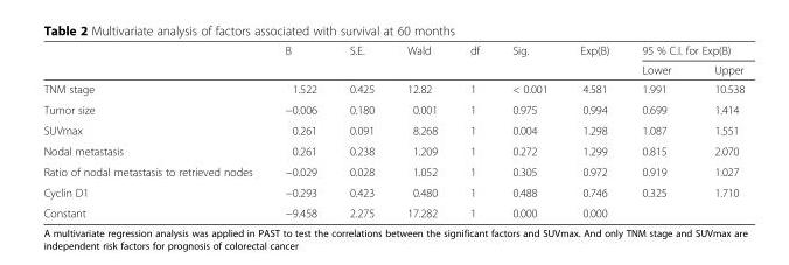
<table><thead><tr><td rowspan="2"></td><td rowspan="2">B</td><td rowspan="2">S.E.</td><td rowspan="2">Wald</td><td rowspan="2">df</td><td rowspan="2">Sig.</td><td rowspan="2">Exp(B)</td><td colspan="2">95 % C.I. for Exp(B)</td></tr><tr><td>Lower</td><td>Upper</td></tr></thead><tbody><tr><td>TNM stage</td><td>1.522</td><td>0.425</td><td>12.82</td><td>1</td><td>&lt; 0.001</td><td>4.581</td><td>1.991</td><td>10.538</td></tr><tr><td>Tumor size</td><td>−0.006</td><td>0.180</td><td>0.001</td><td>1</td><td>0.975</td><td>0.994</td><td>0.699</td><td>1.414</td></tr><tr><td>SUVmax</td><td>0.261</td><td>0.091</td><td>8.268</td><td>1</td><td>0.004</td><td>1.298</td><td>1.087</td><td>1.551</td></tr><tr><td>Nodal metastasis</td><td>0.261</td><td>0.238</td><td>1.209</td><td>1</td><td>0.272</td><td>1.299</td><td>0.815</td><td>2.070</td></tr><tr><td>Ratio of nodal metastasis to retrieved nodes</td><td>−0.029</td><td>0.028</td><td>1.052</td><td>1</td><td>0.305</td><td>0.972</td><td>0.919</td><td>1.027</td></tr><tr><td>Cyclin D1</td><td>−0.293</td><td>0.423</td><td>0.480</td><td>1</td><td>0.488</td><td>0.746</td><td>0.325</td><td>1.710</td></tr><tr><td>Constant</td><td>−9.458</td><td>2.275</td><td>17.282</td><td>1</td><td>0.000</td><td>0.000</td><td></td><td></td></tr></tbody></table>